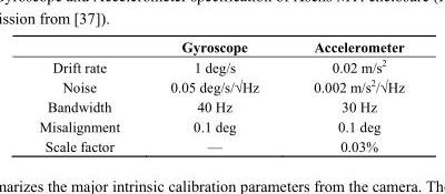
<table><thead><tr><td></td><td>Gyroscope</td><td>Accelerometer</td></tr></thead><tbody><tr><td>Drift rate</td><td>1 deg/s</td><td>0.02 m/s<sup>2</sup></td></tr><tr><td>Noise</td><td>0.05 deg/s/√Hz</td><td>0.002 m/s<sup>2</sup>/√Hz</td></tr><tr><td>Bandwidth</td><td>40 Hz</td><td>30 Hz</td></tr><tr><td>Misalignment</td><td>0.1 deg</td><td>0.1 deg</td></tr><tr><td>Scale factor</td><td>—</td><td>0.03%</td></tr></tbody></table>